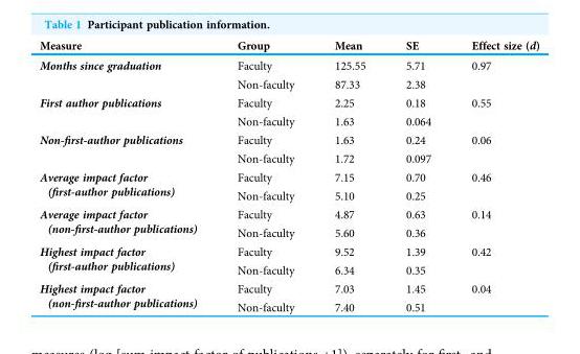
<table><thead><tr><td>Measure</td><td>Group</td><td>Mean</td><td>SE</td><td>Effect size (d)</td></tr></thead><tbody><tr><td rowspan="2">Months since graduation</td><td>Faculty</td><td>125.55</td><td>5.71</td><td>0.97</td></tr><tr><td>Non-faculty</td><td>87.33</td><td>2.38</td><td></td></tr><tr><td rowspan="2">First author publications</td><td>Faculty</td><td>2.25</td><td>0.18</td><td>0.55</td></tr><tr><td>Non-faculty</td><td>1.63</td><td>0.064</td><td></td></tr><tr><td rowspan="2">Non-first-author publications</td><td>Faculty</td><td>1.63</td><td>0.24</td><td>0.06</td></tr><tr><td>Non-faculty</td><td>1.72</td><td>0.097</td><td></td></tr><tr><td rowspan="2">Average impact factor (first-author publications)</td><td>Faculty</td><td>7.15</td><td>0.70</td><td>0.46</td></tr><tr><td>Non-faculty</td><td>5.10</td><td>0.25</td><td></td></tr><tr><td rowspan="2">Average impact factor (non-first-author publications)</td><td>Faculty</td><td>4.87</td><td>0.63</td><td>0.14</td></tr><tr><td>Non-faculty</td><td>5.60</td><td>0.36</td><td></td></tr><tr><td rowspan="2">Highest impact factor (first-author publications)</td><td>Faculty</td><td>9.52</td><td>1.39</td><td>0.42</td></tr><tr><td>Non-faculty</td><td>6.34</td><td>0.35</td><td></td></tr><tr><td rowspan="2">Highest impact factor (non-first-author publications)</td><td>Faculty</td><td>7.03</td><td>1.45</td><td>0.04</td></tr><tr><td>Non-faculty</td><td>7.40</td><td>0.51</td><td></td></tr></tbody></table>